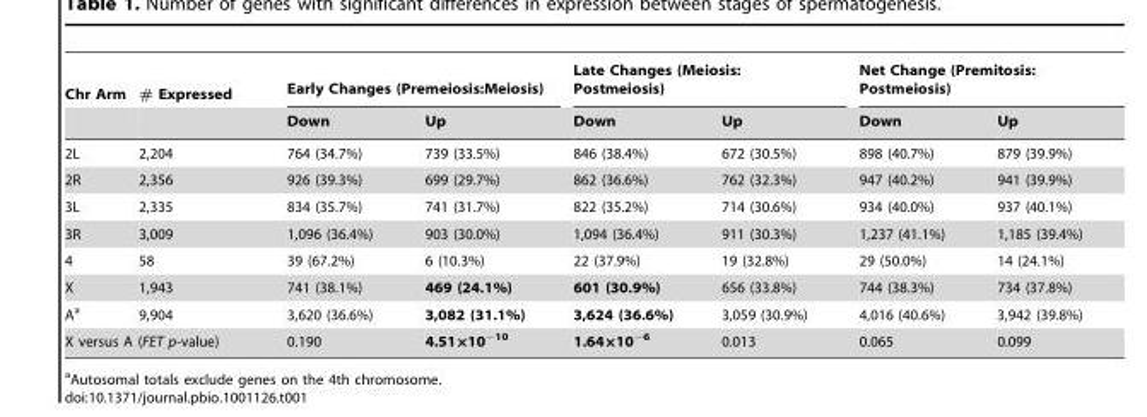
<table><thead><tr><td rowspan="2">Chr Arm</td><td rowspan="2"># Expressed</td><td colspan="2">Early Changes (Premeiosis:Meiosis)</td><td colspan="2">Late Changes (Meiosis: Postmeiosis)</td><td colspan="2">Net Change (Premitosis: Postmeiosis)</td></tr><tr><td>Down</td><td>Up</td><td>Down</td><td>Up</td><td>Down</td><td>Up</td></tr></thead><tbody><tr><td>2L</td><td>2,204</td><td>764 (34.7%)</td><td>739 (33.5%)</td><td>846 (38.4%)</td><td>672 (30.5%)</td><td>898 (40.7%)</td><td>879 (39.9%)</td></tr><tr><td>2R</td><td>2,356</td><td>926 (39.3%)</td><td>699 (29.7%)</td><td>862 (36.6%)</td><td>762 (32.3%)</td><td>947 (40.2%)</td><td>941 (39.9%)</td></tr><tr><td>3L</td><td>2,335</td><td>834 (35.7%)</td><td>741 (31.7%)</td><td>822 (35.2%)</td><td>714 (30.6%)</td><td>934 (40.0%)</td><td>937 (40.1%)</td></tr><tr><td>3R</td><td>3,009</td><td>1,096 (36.4%)</td><td>903 (30.0%)</td><td>1,094 (36.4%)</td><td>911 (30.3%)</td><td>1,237 (41.1%)</td><td>1,185 (39.4%)</td></tr><tr><td>4</td><td>58</td><td>39 (67.2%)</td><td>6 (10.3%)</td><td>22 (37.9%)</td><td>19 (32.8%)</td><td>29 (50.0%)</td><td>14 (24.1%)</td></tr><tr><td>X</td><td>1,943</td><td>741 (38.1%)</td><td>469 (24.1%)</td><td>601 (30.9%)</td><td>656 (33.8%)</td><td>744 (38.3%)</td><td>734 (37.8%)</td></tr><tr><td>A<sup>a</sup></td><td>9,904</td><td>3,620 (36.6%)</td><td>3,082 (31.1%)</td><td>3,624 (36.6%)</td><td>3,059 (30.9%)</td><td>4,016 (40.6%)</td><td>3,942 (39.8%)</td></tr><tr><td colspan="2">X versus A (FET p-value)</td><td>0.190</td><td>4.51×10<sup>−10</sup></td><td>1.64×10<sup>−6</sup></td><td>0.013</td><td>0.065</td><td>0.099</td></tr></tbody></table>